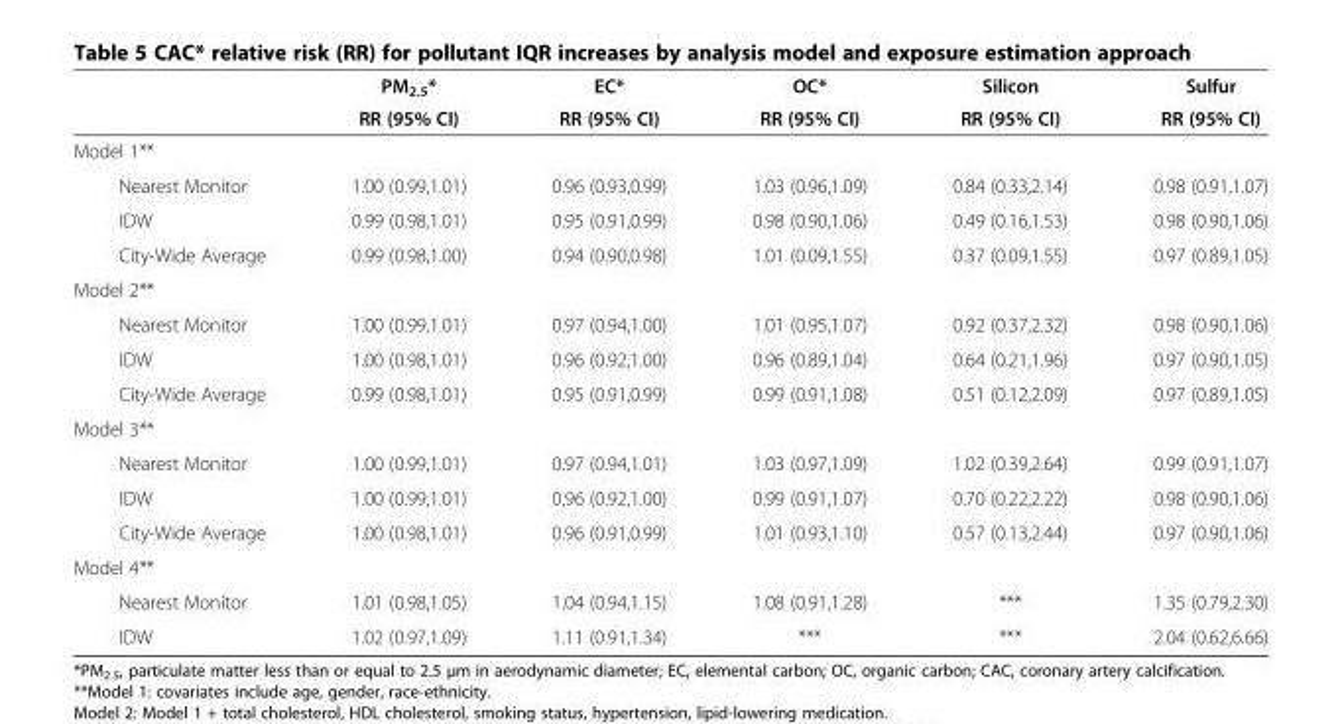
<table><thead><tr><td rowspan="2"></td><td rowspan="2">PM<sub>2.5</sub>* RR (95% CI)</td><td rowspan="2">EC* RR (95% CI)</td><td rowspan="2">OC* RR (95% CI)</td><td rowspan="2">Silicon RR (95% CI)</td><td rowspan="2">Sulfur RR (95% CI)</td></tr><tr></tr></thead><tbody><tr><td colspan="6">Model 1**</td></tr><tr><td>Nearest Monitor</td><td>1.00 (0.99,1.01)</td><td>0.96 (0.93,0.99)</td><td>1.03 (0.96,1.09)</td><td>0.84 (0.33,2.14)</td><td>0.98 (0.91,1.07)</td></tr><tr><td>IDW</td><td>0.99 (0.98,1.01)</td><td>0.95 (0.91,0.99)</td><td>0.98 (0.90,1.06)</td><td>0.49 (0.16,1.53)</td><td>0.98 (0.90,1.06)</td></tr><tr><td>City-Wide Average</td><td>0.99 (0.98,1.00)</td><td>0.94 (0.90,0.98)</td><td>1.01 (0.09,1.55)</td><td>0.37 (0.09,1.55)</td><td>0.97 (0.89,1.05)</td></tr><tr><td colspan="6">Model 2**</td></tr><tr><td>Nearest Monitor</td><td>1.00 (0.99,1.01)</td><td>0.97 (0.94,1.00)</td><td>1.01 (0.95,1.07)</td><td>0.92 (0.37,2.32)</td><td>0.98 (0.90,1.06)</td></tr><tr><td>IDW</td><td>1.00 (0.98,1.01)</td><td>0.96 (0.92,1.00)</td><td>0.96 (0.89,1.04)</td><td>0.64 (0.21,1.96)</td><td>0.97 (0.90,1.05)</td></tr><tr><td>City-Wide Average</td><td>0.99 (0.98,1.01)</td><td>0.95 (0.91,0.99)</td><td>0.99 (0.91,1.08)</td><td>0.51 (0.12,2.09)</td><td>0.97 (0.89,1.05)</td></tr><tr><td colspan="6">Model 3**</td></tr><tr><td>Nearest Monitor</td><td>1.00 (0.99,1.01)</td><td>0.97 (0.94,1.01)</td><td>1.03 (0.97,1.09)</td><td>1.02 (0.39,2.64)</td><td>0.99 (0.91,1.07)</td></tr><tr><td>IDW</td><td>1.00 (0.99,1.01)</td><td>0.96 (0.92,1.00)</td><td>0.99 (0.91,1.07)</td><td>0.70 (0.22,2.22)</td><td>0.98 (0.90,1.06)</td></tr><tr><td>City-Wide Average</td><td>1.00 (0.98,1.01)</td><td>0.96 (0.91,0.99)</td><td>1.01 (0.93,1.10)</td><td>0.57 (0.13,2.44)</td><td>0.97 (0.90,1.06)</td></tr><tr><td colspan="6">Model 4**</td></tr><tr><td>Nearest Monitor</td><td>1.01 (0.98,1.05)</td><td>1.04 (0.94,1.15)</td><td>1.08 (0.91,1.28)</td><td>***</td><td>1.35 (0.79,2.30)</td></tr><tr><td>IDW</td><td>1.02 (0.97,1.09)</td><td>1.11 (0.91,1.34)</td><td>***</td><td>***</td><td>2.04 (0.62,6.66)</td></tr></tbody></table>